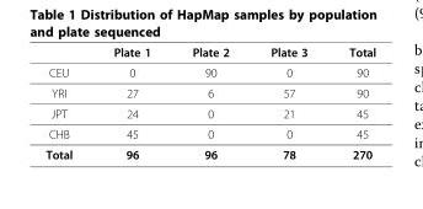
<table><thead><tr><td></td><td>Plate 1</td><td>Plate 2</td><td>Plate 3</td><td>Total</td></tr></thead><tbody><tr><td>CEU</td><td>0</td><td>90</td><td>0</td><td>90</td></tr><tr><td>YRI</td><td>27</td><td>6</td><td>57</td><td>90</td></tr><tr><td>JPT</td><td>24</td><td>0</td><td>21</td><td>45</td></tr><tr><td>CHB</td><td>45</td><td>0</td><td>0</td><td>45</td></tr><tr><td>Total</td><td>96</td><td>96</td><td>78</td><td>270</td></tr></tbody></table>